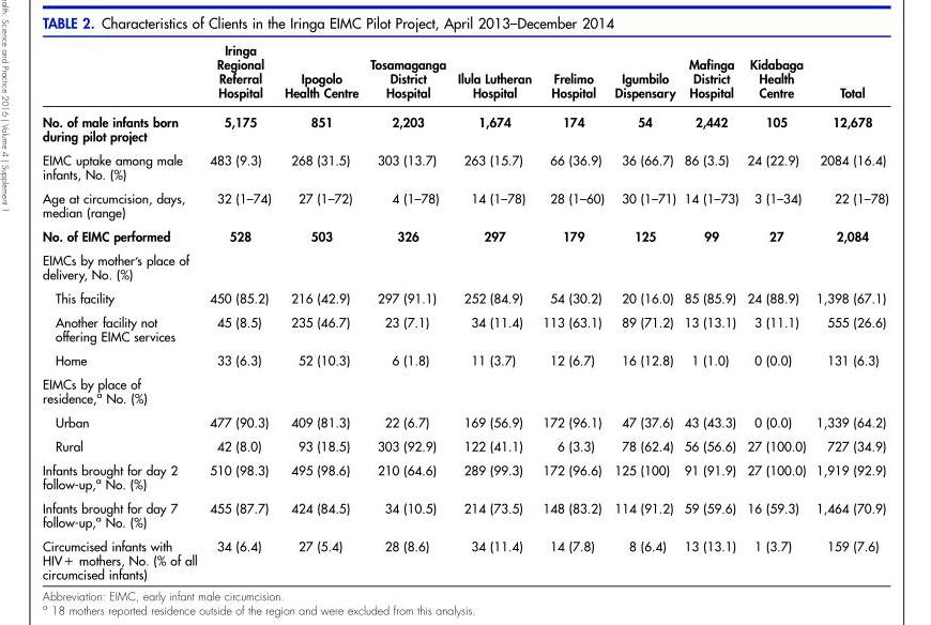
<table><thead><tr><td></td><td>Iringa Regional Referral Hospital</td><td>Ipogolo Health Centre</td><td>Tosamaganga District Hospital</td><td>Ilula Lutheran Hospital</td><td>Frelimo Hospital</td><td>Igumbilo Dispensary</td><td>Mafinga District Hospital</td><td>Kidabaga Health Centre</td><td>Total</td></tr></thead><tbody><tr><td>No. of male infants born during pilot project</td><td>5,175</td><td>851</td><td>2,203</td><td>1,674</td><td>174</td><td>54</td><td>2,442</td><td>105</td><td>12,678</td></tr><tr><td>EIMC uptake among male infants, No. (%)</td><td>483 (9.3)</td><td>268 (31.5)</td><td>303 (13.7)</td><td>263 (15.7)</td><td>66 (36.9)</td><td>36 (66.7)</td><td>86 (3.5)</td><td>24 (22.9)</td><td>2084 (16.4)</td></tr><tr><td>Age at circumcision, days, median (range)</td><td>32 (1–74)</td><td>27 (1–72)</td><td>4 (1–78)</td><td>14 (1–78)</td><td>28 (1–60)</td><td>30 (1–71)</td><td>14 (1–73)</td><td>3 (1–34)</td><td>22 (1–78)</td></tr><tr><td>No. of EIMC performed</td><td>528</td><td>503</td><td>326</td><td>297</td><td>179</td><td>125</td><td>99</td><td>27</td><td>2,084</td></tr><tr><td colspan="10">EIMCs by mother’s place of delivery, No. (%)</td></tr><tr><td>This facility</td><td>450 (85.2)</td><td>216 (42.9)</td><td>297 (91.1)</td><td>252 (84.9)</td><td>54 (30.2)</td><td>20 (16.0)</td><td>85 (85.9)</td><td>24 (88.9)</td><td>1,398 (67.1)</td></tr><tr><td>Another facility not offering EIMC services</td><td>45 (8.5)</td><td>235 (46.7)</td><td>23 (7.1)</td><td>34 (11.4)</td><td>113 (63.1)</td><td>89 (71.2)</td><td>13 (13.1)</td><td>3 (11.1)</td><td>555 (26.6)</td></tr><tr><td>Home</td><td>33 (6.3)</td><td>52 (10.3)</td><td>6 (1.8)</td><td>11 (3.7)</td><td>12 (6.7)</td><td>16 (12.8)</td><td>1 (1.0)</td><td>0 (0.0)</td><td>131 (6.3)</td></tr><tr><td colspan="10">EIMCs by place of residence,<sup>a</sup> No. (%)</td></tr><tr><td>Urban</td><td>477 (90.3)</td><td>409 (81.3)</td><td>22 (6.7)</td><td>169 (56.9)</td><td>172 (96.1)</td><td>47 (37.6)</td><td>43 (43.3)</td><td>0 (0.0)</td><td>1,339 (64.2)</td></tr><tr><td>Rural</td><td>42 (8.0)</td><td>93 (18.5)</td><td>303 (92.9)</td><td>122 (41.1)</td><td>6 (3.3)</td><td>78 (62.4)</td><td>56 (56.6)</td><td>27 (100.0)</td><td>727 (34.9)</td></tr><tr><td>Infants brought for day 2 follow-up,<sup>a</sup> No. (%)</td><td>510 (98.3)</td><td>495 (98.6)</td><td>210 (64.6)</td><td>289 (99.3)</td><td>172 (96.6)</td><td>125 (100)</td><td>91 (91.9)</td><td>27 (100.0)</td><td>1,919 (92.9)</td></tr><tr><td>Infants brought for day 7 follow-up,<sup>a</sup> No. (%)</td><td>455 (87.7)</td><td>424 (84.5)</td><td>34 (10.5)</td><td>214 (73.5)</td><td>148 (83.2)</td><td>114 (91.2)</td><td>59 (59.6)</td><td>16 (59.3)</td><td>1,464 (70.9)</td></tr><tr><td>Circumcised infants with HIV+ mothers, No. (% of all circumcised infants)</td><td>34 (6.4)</td><td>27 (5.4)</td><td>28 (8.6)</td><td>34 (11.4)</td><td>14 (7.8)</td><td>8 (6.4)</td><td>13 (13.1)</td><td>1 (3.7)</td><td>159 (7.6)</td></tr></tbody></table>